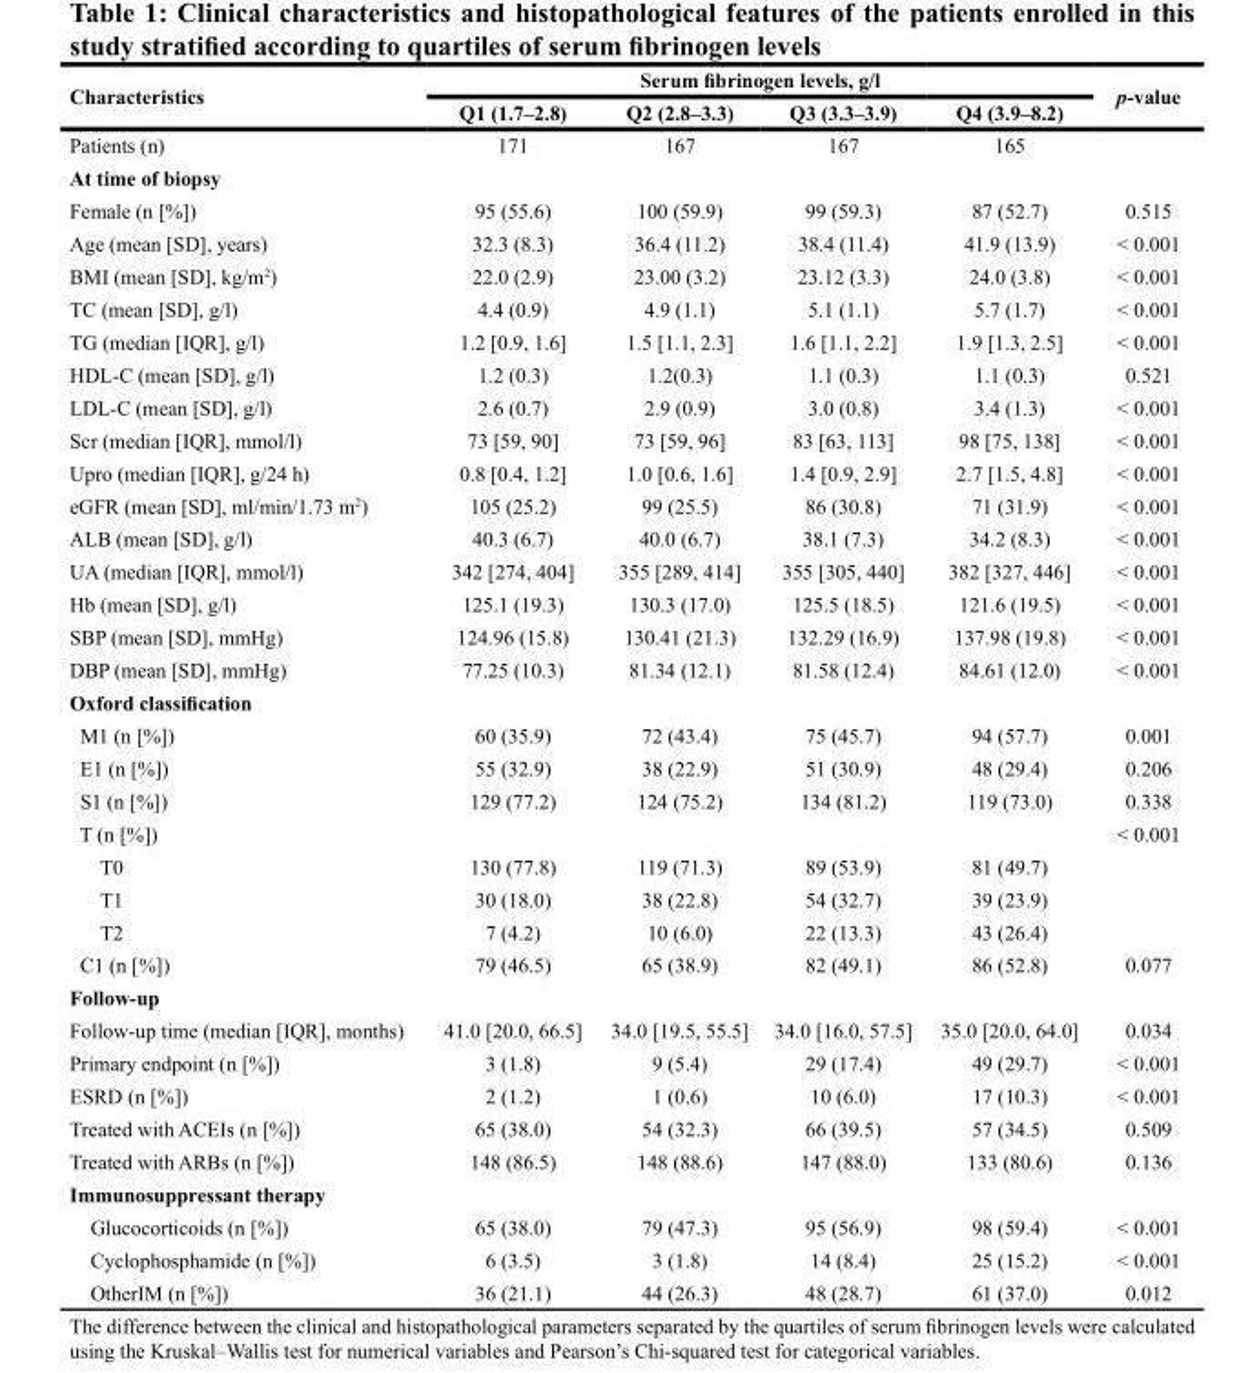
<table><thead><tr><td rowspan="2">Characteristics</td><td colspan="4">Serum fibrinogen levels, g/l</td><td rowspan="2">p-value</td></tr><tr><td>Q1 (1.7–2.8)</td><td>Q2 (2.8–3.3)</td><td>Q3 (3.3–3.9)</td><td>Q4 (3.9–8.2)</td></tr></thead><tbody><tr><td>Patients (n)</td><td>171</td><td>167</td><td>167</td><td>165</td><td></td></tr><tr><td colspan="6">At time of biopsy</td></tr><tr><td>Female (n [%])</td><td>95 (55.6)</td><td>100 (59.9)</td><td>99 (59.3)</td><td>87 (52.7)</td><td>0.515</td></tr><tr><td>Age (mean [SD], years)</td><td>32.3 (8.3)</td><td>36.4 (11.2)</td><td>38.4 (11.4)</td><td>41.9 (13.9)</td><td>&lt; 0.001</td></tr><tr><td>BMI (mean [SD], kg/m<sup>2</sup>)</td><td>22.0 (2.9)</td><td>23.00 (3.2)</td><td>23.12 (3.3)</td><td>24.0 (3.8)</td><td>&lt; 0.001</td></tr><tr><td>TC (mean [SD], g/l)</td><td>4.4 (0.9)</td><td>4.9 (1.1)</td><td>5.1 (1.1)</td><td>5.7 (1.7)</td><td>&lt; 0.001</td></tr><tr><td>TG (median [IQR], g/l)</td><td>1.2 [0.9, 1.6]</td><td>1.5 [1.1, 2.3]</td><td>1.6 [1.1, 2.2]</td><td>1.9 [1.3, 2.5]</td><td>&lt; 0.001</td></tr><tr><td>HDL-C (mean [SD], g/l)</td><td>1.2 (0.3)</td><td>1.2(0.3)</td><td>1.1 (0.3)</td><td>1.1 (0.3)</td><td>0.521</td></tr><tr><td>LDL-C (mean [SD], g/l)</td><td>2.6 (0.7)</td><td>2.9 (0.9)</td><td>3.0 (0.8)</td><td>3.4 (1.3)</td><td>&lt; 0.001</td></tr><tr><td>Scr (median [IQR], mmol/l)</td><td>73 [59, 90]</td><td>73 [59, 96]</td><td>83 [63, 113]</td><td>98 [75, 138]</td><td>&lt; 0.001</td></tr><tr><td>Upro (median [IQR], g/24 h)</td><td>0.8 [0.4, 1.2]</td><td>1.0 [0.6, 1.6]</td><td>1.4 [0.9, 2.9]</td><td>2.7 [1.5, 4.8]</td><td>&lt; 0.001</td></tr><tr><td>eGFR (mean [SD], ml/min/1.73 m<sup>2</sup>)</td><td>105 (25.2)</td><td>99 (25.5)</td><td>86 (30.8)</td><td>71 (31.9)</td><td>&lt; 0.001</td></tr><tr><td>ALB (mean [SD], g/l)</td><td>40.3 (6.7)</td><td>40.0 (6.7)</td><td>38.1 (7.3)</td><td>34.2 (8.3)</td><td>&lt; 0.001</td></tr><tr><td>UA (median [IQR], mmol/l)</td><td>342 [274, 404]</td><td>355 [289, 414]</td><td>355 [305, 440]</td><td>382 [327, 446]</td><td>&lt; 0.001</td></tr><tr><td>Hb (mean [SD], g/l)</td><td>125.1 (19.3)</td><td>130.3 (17.0)</td><td>125.5 (18.5)</td><td>121.6 (19.5)</td><td>&lt; 0.001</td></tr><tr><td>SBP (mean [SD], mmHg)</td><td>124.96 (15.8)</td><td>130.41 (21.3)</td><td>132.29 (16.9)</td><td>137.98 (19.8)</td><td>&lt; 0.001</td></tr><tr><td>DBP (mean [SD], mmHg)</td><td>77.25 (10.3)</td><td>81.34 (12.1)</td><td>81.58 (12.4)</td><td>84.61 (12.0)</td><td>&lt; 0.001</td></tr><tr><td colspan="6">Oxford classification</td></tr><tr><td>M1 (n [%])</td><td>60 (35.9)</td><td>72 (43.4)</td><td>75 (45.7)</td><td>94 (57.7)</td><td>0.001</td></tr><tr><td>E1 (n [%])</td><td>55 (32.9)</td><td>38 (22.9)</td><td>51 (30.9)</td><td>48 (29.4)</td><td>0.206</td></tr><tr><td>S1 (n [%])</td><td>129 (77.2)</td><td>124 (75.2)</td><td>134 (81.2)</td><td>119 (73.0)</td><td>0.338</td></tr><tr><td>T (n [%])</td><td></td><td></td><td></td><td></td><td>&lt; 0.001</td></tr><tr><td>T0</td><td>130 (77.8)</td><td>119 (71.3)</td><td>89 (53.9)</td><td>81 (49.7)</td><td></td></tr><tr><td>T1</td><td>30 (18.0)</td><td>38 (22.8)</td><td>54 (32.7)</td><td>39 (23.9)</td><td></td></tr><tr><td>T2</td><td>7 (4.2)</td><td>10 (6.0)</td><td>22 (13.3)</td><td>43 (26.4)</td><td></td></tr><tr><td>C1 (n [%])</td><td>79 (46.5)</td><td>65 (38.9)</td><td>82 (49.1)</td><td>86 (52.8)</td><td>0.077</td></tr><tr><td colspan="6">Follow-up</td></tr><tr><td>Follow-up time (median [IQR], months)</td><td>41.0 [20.0, 66.5]</td><td>34.0 [19.5, 55.5]</td><td>34.0 [16.0, 57.5]</td><td>35.0 [20.0, 64.0]</td><td>0.034</td></tr><tr><td>Primary endpoint (n [%])</td><td>3 (1.8)</td><td>9 (5.4)</td><td>29 (17.4)</td><td>49 (29.7)</td><td>&lt; 0.001</td></tr><tr><td>ESRD (n [%])</td><td>2 (1.2)</td><td>1 (0.6)</td><td>10 (6.0)</td><td>17 (10.3)</td><td>&lt; 0.001</td></tr><tr><td>Treated with ACEIs (n [%])</td><td>65 (38.0)</td><td>54 (32.3)</td><td>66 (39.5)</td><td>57 (34.5)</td><td>0.509</td></tr><tr><td>Treated with ARBs (n [%])</td><td>148 (86.5)</td><td>148 (88.6)</td><td>147 (88.0)</td><td>133 (80.6)</td><td>0.136</td></tr><tr><td colspan="6">Immunosuppressant therapy</td></tr><tr><td>Glucocorticoids (n [%])</td><td>65 (38.0)</td><td>79 (47.3)</td><td>95 (56.9)</td><td>98 (59.4)</td><td>&lt; 0.001</td></tr><tr><td>Cyclophosphamide (n [%])</td><td>6 (3.5)</td><td>3 (1.8)</td><td>14 (8.4)</td><td>25 (15.2)</td><td>&lt; 0.001</td></tr><tr><td>OtherIM (n [%])</td><td>36 (21.1)</td><td>44 (26.3)</td><td>48 (28.7)</td><td>61 (37.0)</td><td>0.012</td></tr></tbody></table>